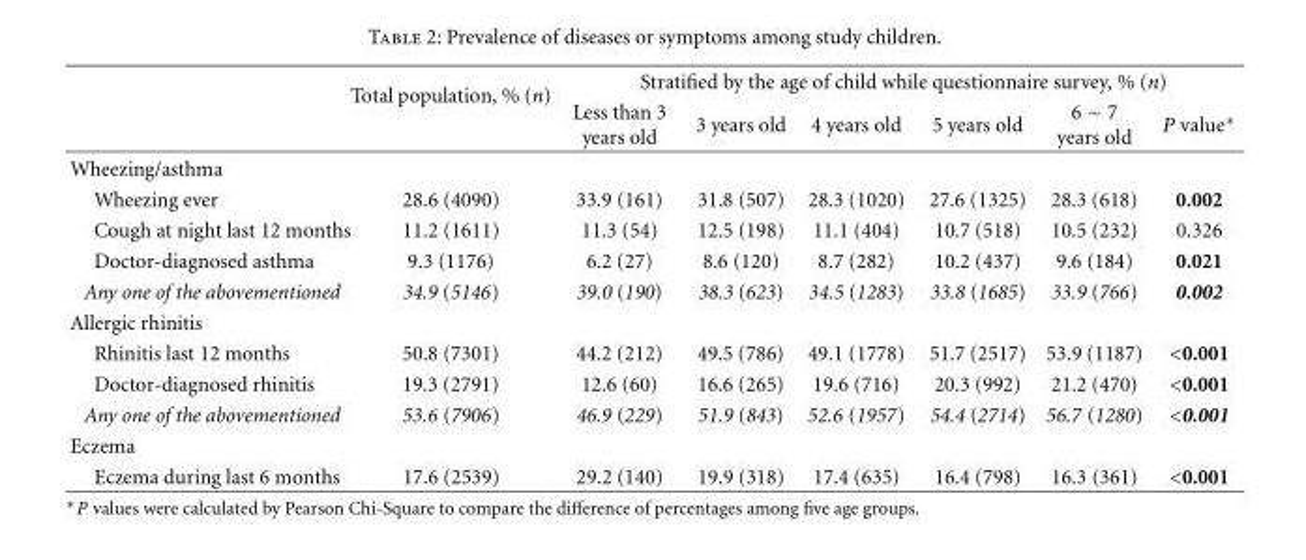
<table><thead><tr><td rowspan="2"></td><td rowspan="2">Total population, % (n)</td><td colspan="6">Stratified by the age of child while questionnaire survey, % (n)</td></tr><tr><td>Less than 3 years old</td><td>3 years old</td><td>4 years old</td><td>5 years old</td><td>6 ∼ 7 years old</td><td>P value∗</td></tr></thead><tbody><tr><td colspan="8">Wheezing/asthma</td></tr><tr><td>Wheezing ever</td><td>28.6 (4090)</td><td>33.9 (161)</td><td>31.8 (507)</td><td>28.3 (1020)</td><td>27.6 (1325)</td><td>28.3 (618)</td><td>0.002</td></tr><tr><td>Cough at night last 12 months</td><td>11.2 (1611)</td><td>11.3 (54)</td><td>12.5 (198)</td><td>11.1 (404)</td><td>10.7 (518)</td><td>10.5 (232)</td><td>0.326</td></tr><tr><td>Doctor-diagnosed asthma</td><td>9.3 (1176)</td><td>6.2 (27)</td><td>8.6 (120)</td><td>8.7 (282)</td><td>10.2 (437)</td><td>9.6 (184)</td><td>0.021</td></tr><tr><td>Any one of the abovementioned</td><td>34.9 (5146)</td><td>39.0 (190)</td><td>38.3 (623)</td><td>34.5 (1283)</td><td>33.8 (1685)</td><td>33.9 (766)</td><td>0.002</td></tr><tr><td colspan="8">Allergic rhinitis</td></tr><tr><td>Rhinitis last 12 months</td><td>50.8 (7301)</td><td>44.2 (212)</td><td>49.5 (786)</td><td>49.1 (1778)</td><td>51.7 (2517)</td><td>53.9 (1187)</td><td>&lt;0.001</td></tr><tr><td>Doctor-diagnosed rhinitis</td><td>19.3 (2791)</td><td>12.6 (60)</td><td>16.6 (265)</td><td>19.6 (716)</td><td>20.3 (992)</td><td>21.2 (470)</td><td>&lt;0.001</td></tr><tr><td>Any one of the abovementioned</td><td>53.6 (7906)</td><td>46.9 (229)</td><td>51.9 (843)</td><td>52.6 (1957)</td><td>54.4 (2714)</td><td>56.7 (1280)</td><td>&lt;0.001</td></tr><tr><td colspan="8">Eczema</td></tr><tr><td>Eczema during last 6 months</td><td>17.6 (2539)</td><td>29.2 (140)</td><td>19.9 (318)</td><td>17.4 (635)</td><td>16.4 (798)</td><td>16.3 (361)</td><td>&lt;0.001</td></tr></tbody></table>